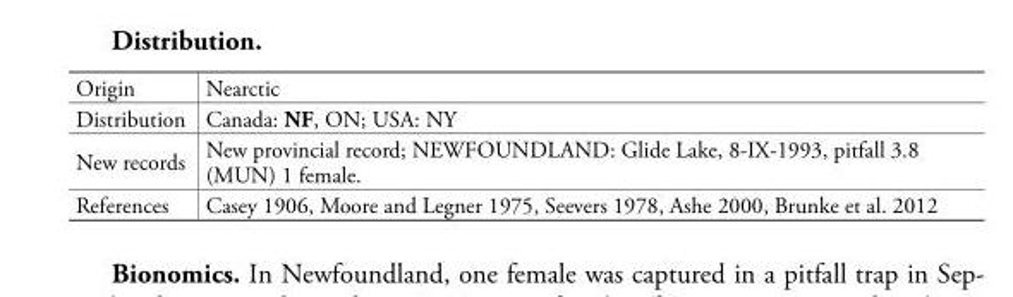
<table><tbody><tr><td>Origin</td><td>Nearctic</td></tr><tr><td>Distribution</td><td>Canada: NF, ON; USA: NY</td></tr><tr><td>New records</td><td>New provincial record; NEWFOUNDLAND: Glide Lake, 8-IX-1993, pitfall 3.8 (MUN) 1 female.</td></tr><tr><td>References</td><td>Casey 1906, Moore and Legner 1975, Seevers 1978, Ashe 2000, Brunke et al. 2012</td></tr></tbody></table>